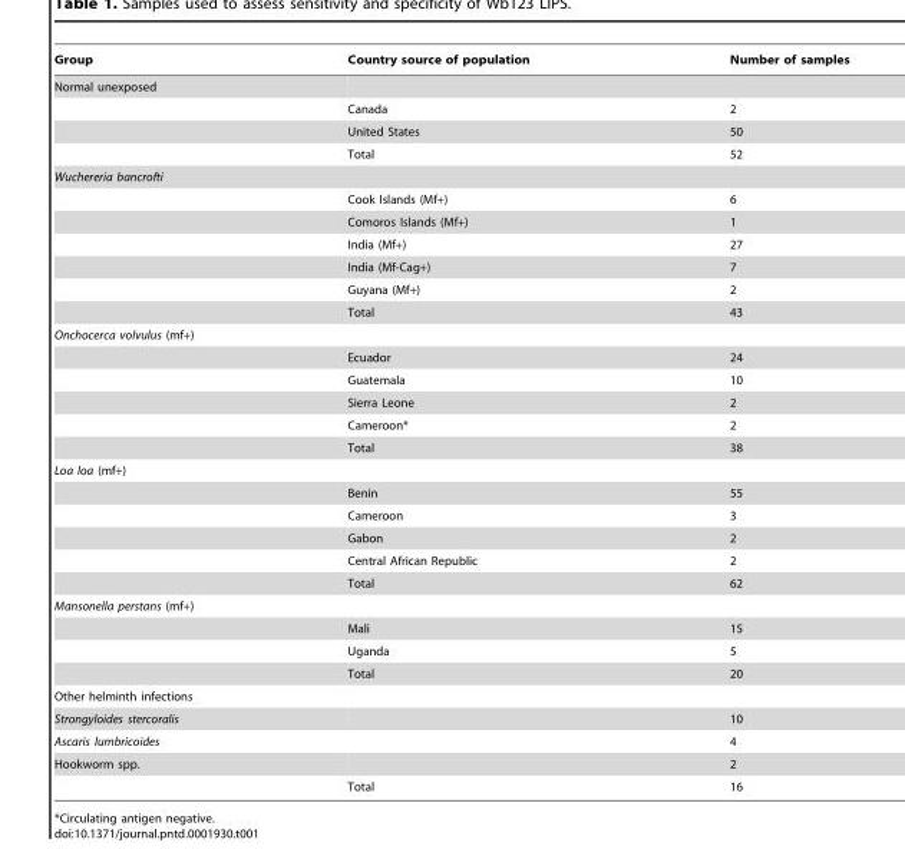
<table><thead><tr><td>Group</td><td>Country source of population</td><td>Number of samples</td></tr></thead><tbody><tr><td colspan="3">Normal unexposed</td></tr><tr><td></td><td>Canada</td><td>2</td></tr><tr><td></td><td>United States</td><td>50</td></tr><tr><td></td><td>Total</td><td>52</td></tr><tr><td colspan="3">Wuchereria bancrofti</td></tr><tr><td></td><td>Cook Islands (Mf+)</td><td>6</td></tr><tr><td></td><td>Comoros Islands (Mf+)</td><td>1</td></tr><tr><td></td><td>India (Mf+)</td><td>27</td></tr><tr><td></td><td>India (Mf-Cag+)</td><td>7</td></tr><tr><td></td><td>Guyana (Mf+)</td><td>2</td></tr><tr><td></td><td>Total</td><td>43</td></tr><tr><td colspan="3">Onchocerca volvulus (mf+)</td></tr><tr><td></td><td>Ecuador</td><td>24</td></tr><tr><td></td><td>Guatemala</td><td>10</td></tr><tr><td></td><td>Sierra Leone</td><td>2</td></tr><tr><td></td><td>Cameroon*</td><td>2</td></tr><tr><td></td><td>Total</td><td>38</td></tr><tr><td colspan="3">Loa loa (mf+)</td></tr><tr><td></td><td>Benin</td><td>55</td></tr><tr><td></td><td>Cameroon</td><td>3</td></tr><tr><td></td><td>Gabon</td><td>2</td></tr><tr><td></td><td>Central African Republic</td><td>2</td></tr><tr><td></td><td>Total</td><td>62</td></tr><tr><td colspan="3">Mansonella perstans (mf+)</td></tr><tr><td></td><td>Mali</td><td>15</td></tr><tr><td></td><td>Uganda</td><td>5</td></tr><tr><td></td><td>Total</td><td>20</td></tr><tr><td colspan="3">Other helminth infections</td></tr><tr><td>Strongyloides stercoralis</td><td></td><td>10</td></tr><tr><td>Ascaris lumbricoides</td><td></td><td>4</td></tr><tr><td rowspan="2">Hookworm spp.</td><td></td><td>2</td></tr><tr><td>Total</td><td>16</td></tr></tbody></table>